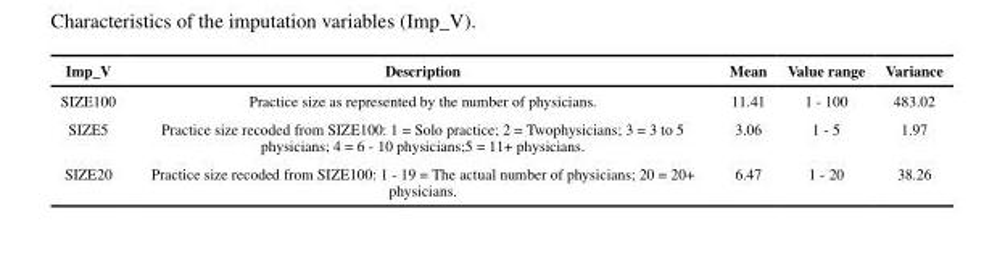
<table><thead><tr><td>Imp_V</td><td>Description</td><td>Mean</td><td>Value range</td><td>Variance</td></tr></thead><tbody><tr><td>SIZE100</td><td>Practice size as represented by the number of physicians.</td><td>11.41</td><td>1 - 100</td><td>483.02</td></tr><tr><td>SIZE5</td><td>Practice size recoded from SIZE100: 1 = Solo practice; 2 = Twophysicians; 3 = 3 to 5 physicians; 4 = 6 - 10 physicians;5 = 11+ physicians.</td><td>3.06</td><td>1 - 5</td><td>1.97</td></tr><tr><td>SIZE20</td><td>Practice size recoded from SIZE100: 1 - 19 = The actual number of physicians; 20 = 20+ physicians.</td><td>6.47</td><td>1 - 20</td><td>38.26</td></tr></tbody></table>